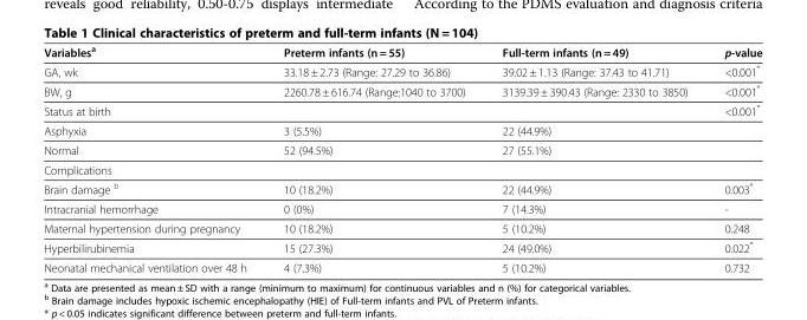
<table><thead><tr><td>Variables<sup>a</sup></td><td>Preterm infants (n = 55)</td><td>Full-term infants (n = 49)</td><td>p-value</td></tr></thead><tbody><tr><td>GA, wk</td><td>33.18 ± 2.73 (Range: 27.29 to 36.86)</td><td>39.02 ± 1.13 (Range: 37.43 to 41.71)</td><td>&lt;0.001*</td></tr><tr><td>BW, g</td><td>2260.78 ± 616.74 (Range:1040 to 3700)</td><td>3139.39 ± 390.43 (Range: 2330 to 3850)</td><td>&lt;0.001*</td></tr><tr><td>Status at birth</td><td></td><td></td><td>&lt;0.001*</td></tr><tr><td>Asphyxia</td><td>3 (5.5%)</td><td>22 (44.9%)</td><td></td></tr><tr><td>Normal</td><td>52 (94.5%)</td><td>27 (55.1%)</td><td></td></tr><tr><td colspan="4">Complications</td></tr><tr><td>Brain damage <sup>b</sup></td><td>10 (18.2%)</td><td>22 (44.9%)</td><td>0.003*</td></tr><tr><td>Intracranial hemorrhage</td><td>0 (0%)</td><td>7 (14.3%)</td><td>-</td></tr><tr><td>Maternal hypertension during pregnancy</td><td>10 (18.2%)</td><td>5 (10.2%)</td><td>0.248</td></tr><tr><td>Hyperbilirubinemia</td><td>15 (27.3%)</td><td>24 (49.0%)</td><td>0.022*</td></tr><tr><td>Neonatal mechanical ventilation over 48 h</td><td>4 (7.3%)</td><td>5 (10.2%)</td><td>0.732</td></tr></tbody></table>